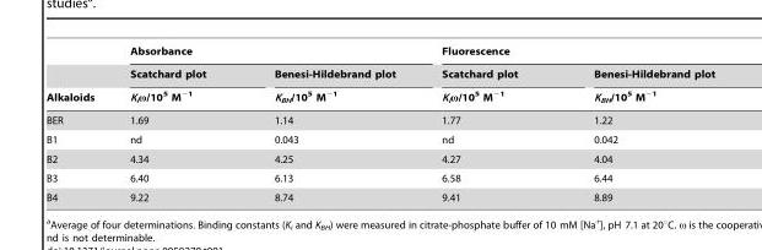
<table><thead><tr><td rowspan="3">Alkaloids</td><td colspan="2">Absorbance</td><td colspan="2">Fluorescence</td></tr><tr><td rowspan="2">Scatchard plot K<sub>i</sub>ω/10<sup>5</sup> M<sup>−1</sup></td><td rowspan="2">Benesi-Hildebrand plot K<sub>BH</sub>/10<sup>5</sup> M<sup>−1</sup></td><td rowspan="2">Scatchard plot K<sub>i</sub>ω/10<sup>5</sup> M<sup>−1</sup></td><td rowspan="2">Benesi-Hildebrand plot K<sub>BH</sub>/10<sup>5</sup> M<sup>−1</sup></td></tr><tr></tr></thead><tbody><tr><td>BER</td><td>1.69</td><td>1.14</td><td>1.77</td><td>1.22</td></tr><tr><td>B1</td><td>nd</td><td>0.043</td><td>nd</td><td>0.042</td></tr><tr><td>B2</td><td>4.34</td><td>4.25</td><td>4.27</td><td>4.04</td></tr><tr><td>B3</td><td>6.40</td><td>6.13</td><td>6.58</td><td>6.44</td></tr><tr><td>B4</td><td>9.22</td><td>8.74</td><td>9.41</td><td>8.89</td></tr></tbody></table>